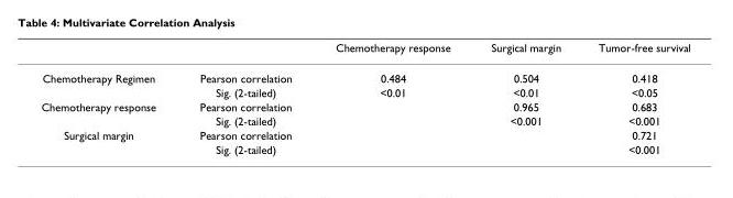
<table><thead><tr><td></td><td></td><td>Chemotherapy response</td><td>Surgical margin</td><td>Tumor-free survival</td></tr></thead><tbody><tr><td rowspan="2">Chemotherapy Regimen</td><td>Pearson correlation</td><td>0.484</td><td>0.504</td><td>0.418</td></tr><tr><td>Sig. (2-tailed)</td><td>&lt;0.01</td><td>&lt;0.01</td><td>&lt;0.05</td></tr><tr><td rowspan="2">Chemotherapy response</td><td>Pearson correlation</td><td></td><td>0.965</td><td>0.683</td></tr><tr><td>Sig. (2-tailed)</td><td></td><td>&lt;0.001</td><td>&lt;0.001</td></tr><tr><td rowspan="2">Surgical margin</td><td>Pearson correlation</td><td></td><td></td><td>0.721</td></tr><tr><td>Sig. (2-tailed)</td><td></td><td></td><td>&lt;0.001</td></tr></tbody></table>